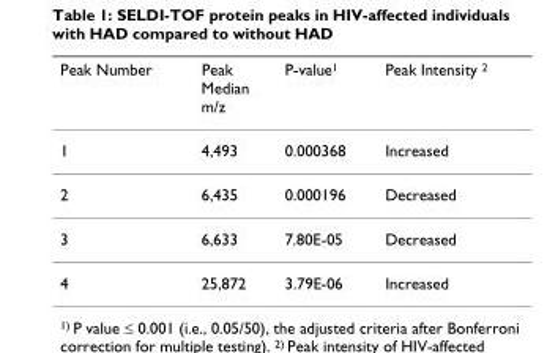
<table><thead><tr><td>Peak Number</td><td>Peak Median m/z</td><td>P-value<sup>1</sup></td><td>Peak Intensity <sup>2</sup></td></tr></thead><tbody><tr><td>1</td><td>4,493</td><td>0.000368</td><td>Increased</td></tr><tr><td>2</td><td>6,435</td><td>0.000196</td><td>Decreased</td></tr><tr><td>3</td><td>6,633</td><td>7.80E-05</td><td>Decreased</td></tr><tr><td>4</td><td>25,872</td><td>3.79E-06</td><td>Increased</td></tr></tbody></table>